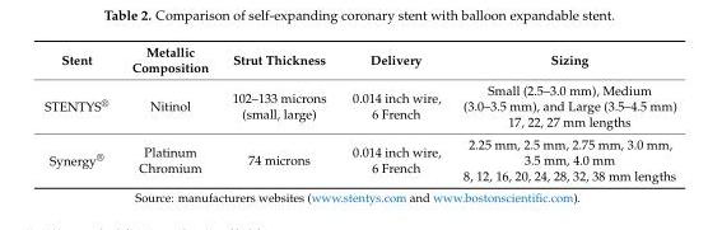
<table><thead><tr><td>Stent</td><td>Metallic Composition</td><td>Strut Thickness</td><td>Delivery</td><td>Sizing</td></tr></thead><tbody><tr><td>STENTYS<sup>®</sup></td><td>Nitinol</td><td>102–133 microns (small, large)</td><td>0.014 inch wire, 6 French</td><td>Small (2.5–3.0 mm), Medium (3.0–3.5 mm), and Large (3.5–4.5 mm) 17, 22, 27 mm lengths</td></tr><tr><td>Synergy<sup>®</sup></td><td>Platinum Chromium</td><td>74 microns</td><td>0.014 inch wire, 6 French</td><td>2.25 mm, 2.5 mm, 2.75 mm, 3.0 mm, 3.5 mm, 4.0 mm 8, 12, 16, 20, 24, 28, 32, 38 mm lengths</td></tr></tbody></table>